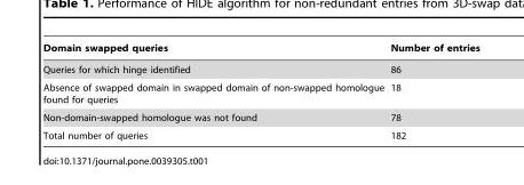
<table><thead><tr><td>Domain swapped queries</td><td>Number of entries</td></tr></thead><tbody><tr><td>Queries for which hinge identified</td><td>86</td></tr><tr><td>Absence of swapped domain in swapped domain of non-swapped homologue found for queries</td><td>18</td></tr><tr><td>Non-domain-swapped homologue was not found</td><td>78</td></tr><tr><td>Total number of queries</td><td>182</td></tr></tbody></table>